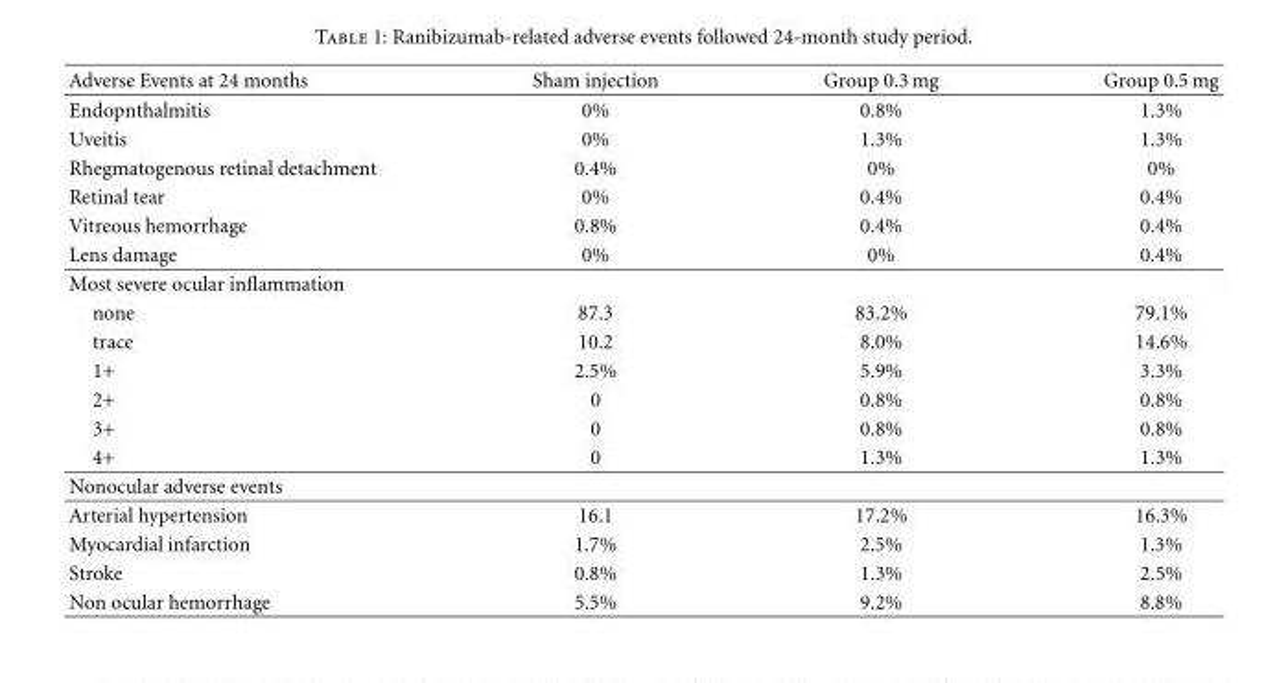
<table><thead><tr><td>Adverse Events at 24 months</td><td>Sham injection</td><td>Group 0.3 mg</td><td>Group 0.5 mg</td></tr></thead><tbody><tr><td>Endopnthalmitis</td><td>0%</td><td>0.8%</td><td>1.3%</td></tr><tr><td>Uveitis</td><td>0%</td><td>1.3%</td><td>1.3%</td></tr><tr><td>Rhegmatogenous retinal detachment</td><td>0.4%</td><td>0%</td><td>0%</td></tr><tr><td>Retinal tear</td><td>0%</td><td>0.4%</td><td>0.4%</td></tr><tr><td>Vitreous hemorrhage</td><td>0.8%</td><td>0.4%</td><td>0.4%</td></tr><tr><td>Lens damage</td><td>0%</td><td>0%</td><td>0.4%</td></tr><tr><td colspan="4">Most severe ocular inflammation</td></tr><tr><td>none</td><td>87.3</td><td>83.2%</td><td>79.1%</td></tr><tr><td>trace</td><td>10.2</td><td>8.0%</td><td>14.6%</td></tr><tr><td>1+</td><td>2.5%</td><td>5.9%</td><td>3.3%</td></tr><tr><td>2+</td><td>0</td><td>0.8%</td><td>0.8%</td></tr><tr><td>3+</td><td>0</td><td>0.8%</td><td>0.8%</td></tr><tr><td>4+</td><td>0</td><td>1.3%</td><td>1.3%</td></tr><tr><td colspan="4">Nonocular adverse events</td></tr><tr><td>Arterial hypertension</td><td>16.1</td><td>17.2%</td><td>16.3%</td></tr><tr><td>Myocardial infarction</td><td>1.7%</td><td>2.5%</td><td>1.3%</td></tr><tr><td>Stroke</td><td>0.8%</td><td>1.3%</td><td>2.5%</td></tr><tr><td>Non ocular hemorrhage</td><td>5.5%</td><td>9.2%</td><td>8.8%</td></tr></tbody></table>